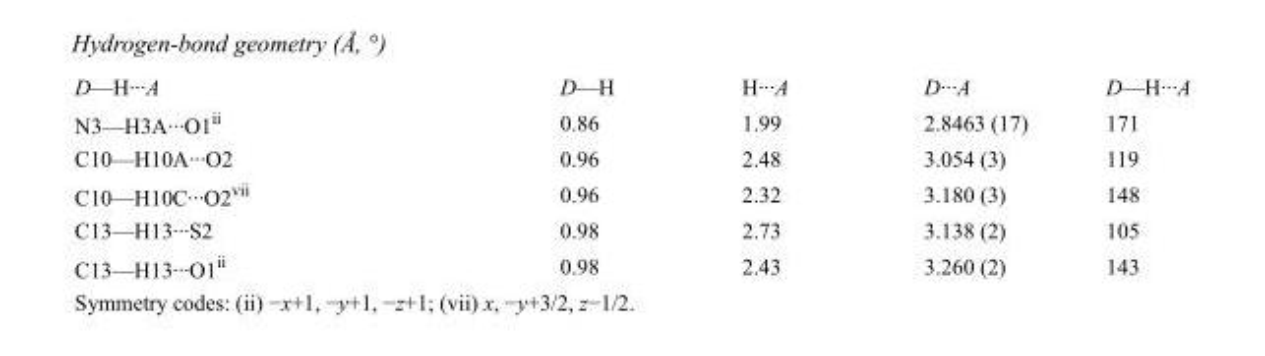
<table><tbody><tr><td>D—H···A</td><td>D—H</td><td>H···A</td><td>D···A</td><td>D—H···A</td></tr><tr><td>N3—H3A···O1<sup>ii</sup></td><td>0.86</td><td>1.99</td><td>2.8463 (17)</td><td>171</td></tr><tr><td>C10—H10A···O2</td><td>0.96</td><td>2.48</td><td>3.054 (3)</td><td>119</td></tr><tr><td>C10—H10C···O2<sup>vii</sup></td><td>0.96</td><td>2.32</td><td>3.180 (3)</td><td>148</td></tr><tr><td>C13—H13···S2</td><td>0.98</td><td>2.73</td><td>3.138 (2)</td><td>105</td></tr><tr><td>C13—H13···O1<sup>ii</sup></td><td>0.98</td><td>2.43</td><td>3.260 (2)</td><td>143</td></tr></tbody></table>